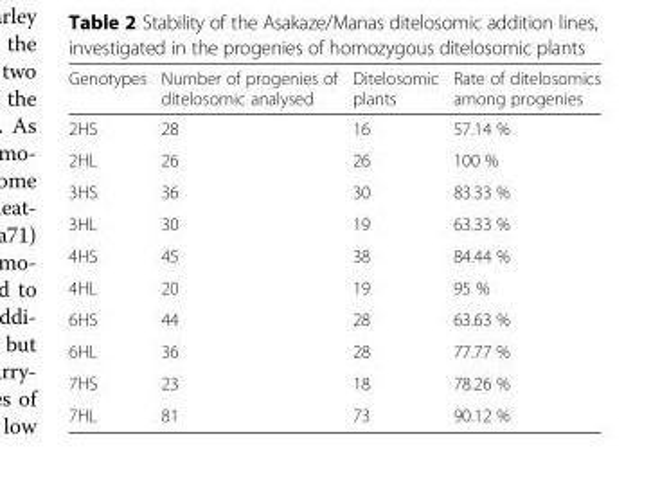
<table><thead><tr><td>Genotypes</td><td>Number of progenies of ditelosomic analysed</td><td>Ditelosomic plants</td><td>Rate of ditelosomics among progenies</td></tr></thead><tbody><tr><td>2HS</td><td>28</td><td>16</td><td>57.14 %</td></tr><tr><td>2HL</td><td>26</td><td>26</td><td>100 %</td></tr><tr><td>3HS</td><td>36</td><td>30</td><td>83.33 %</td></tr><tr><td>3HL</td><td>30</td><td>19</td><td>63.33 %</td></tr><tr><td>4HS</td><td>45</td><td>38</td><td>84.44 %</td></tr><tr><td>4HL</td><td>20</td><td>19</td><td>95 %</td></tr><tr><td>6HS</td><td>44</td><td>28</td><td>63.63 %</td></tr><tr><td>6HL</td><td>36</td><td>28</td><td>77.77 %</td></tr><tr><td>7HS</td><td>23</td><td>18</td><td>78.26 %</td></tr><tr><td>7HL</td><td>81</td><td>73</td><td>90.12 %</td></tr></tbody></table>